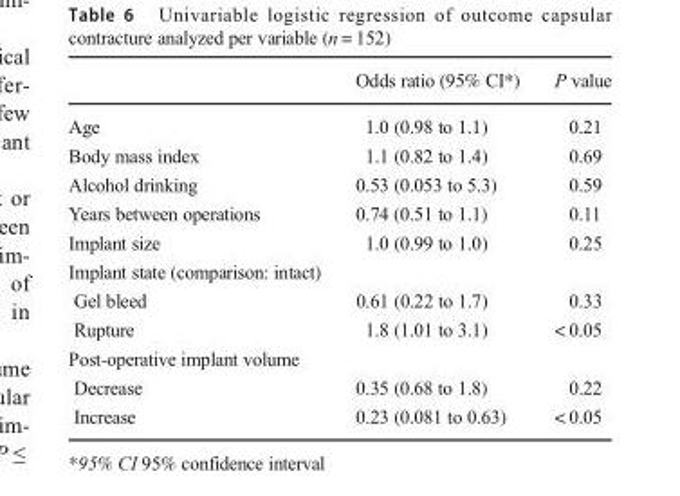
<table><thead><tr><td></td><td>Odds ratio (95% CI*)</td><td>P value</td></tr></thead><tbody><tr><td>Age</td><td>1.0 (0.98 to 1.1)</td><td>0.21</td></tr><tr><td>Body mass index</td><td>1.1 (0.82 to 1.4)</td><td>0.69</td></tr><tr><td>Alcohol drinking</td><td>0.53 (0.053 to 5.3)</td><td>0.59</td></tr><tr><td>Years between operations</td><td>0.74 (0.51 to 1.1)</td><td>0.11</td></tr><tr><td>Implant size</td><td>1.0 (0.99 to 1.0)</td><td>0.25</td></tr><tr><td colspan="3">Implant state (comparison: intact)</td></tr><tr><td>Gel bleed</td><td>0.61 (0.22 to 1.7)</td><td>0.33</td></tr><tr><td>Rupture</td><td>1.8 (1.01 to 3.1)</td><td>&lt; 0.05</td></tr><tr><td colspan="3">Post-operative implant volume</td></tr><tr><td>Decrease</td><td>0.35 (0.68 to 1.8)</td><td>0.22</td></tr><tr><td>Increase</td><td>0.23 (0.081 to 0.63)</td><td>&lt; 0.05</td></tr></tbody></table>